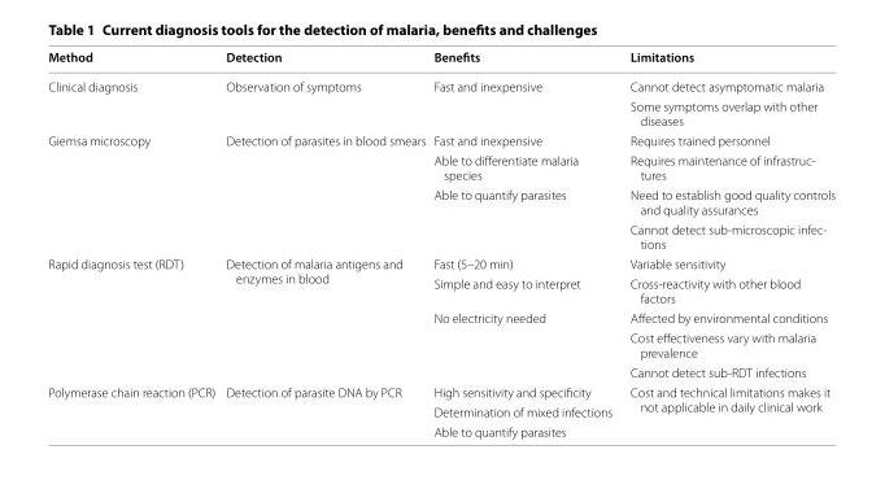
<table><thead><tr><td>Method</td><td>Detection</td><td>Benefits</td><td>Limitations</td></tr></thead><tbody><tr><td rowspan="2">Clinical diagnosis</td><td rowspan="2">Observation of symptoms</td><td rowspan="2">Fast and inexpensive</td><td>Cannot detect asymptomatic malaria</td></tr><tr><td>Some symptoms overlap with other diseases</td></tr><tr><td rowspan="4">Giemsa microscopy</td><td rowspan="4">Detection of parasites in blood smears</td><td>Fast and inexpensive</td><td>Requires trained personnel</td></tr><tr><td>Able to differentiate malaria species</td><td>Requires maintenance of infrastruc- tures</td></tr><tr><td>Able to quantify parasites</td><td>Need to establish good quality controls and quality assurances</td></tr><tr><td></td><td>Cannot detect sub-microscopic infec- tions</td></tr><tr><td rowspan="5">Rapid diagnosis test (RDT)</td><td rowspan="5">Detection of malaria antigens and enzymes in blood</td><td>Fast (5–20 min)</td><td>Variable sensitivity</td></tr><tr><td>Simple and easy to interpret</td><td>Cross-reactivity with other blood factors</td></tr><tr><td>No electricity needed</td><td>Affected by environmental conditions</td></tr><tr><td></td><td>Cost effectiveness vary with malaria prevalence</td></tr><tr><td></td><td>Cannot detect sub-RDT infections</td></tr><tr><td rowspan="3">Polymerase chain reaction (PCR)</td><td rowspan="3">Detection of parasite DNA by PCR</td><td>High sensitivity and specificity</td><td rowspan="3">Cost and technical limitations makes it not applicable in daily clinical work</td></tr><tr><td>Determination of mixed infections</td></tr><tr><td>Able to quantify parasites</td></tr></tbody></table>